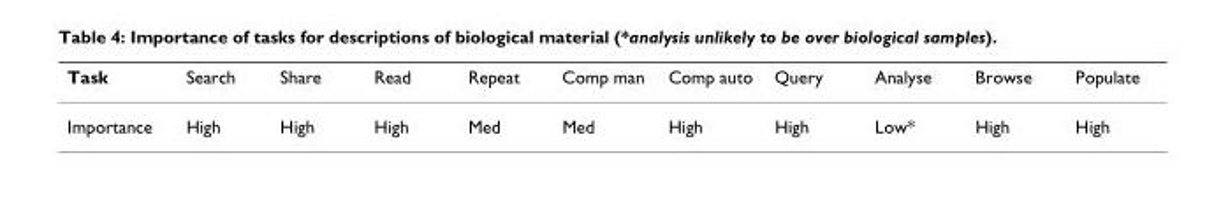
<table><thead><tr><td>Task</td><td>Search</td><td>Share</td><td>Read</td><td>Repeat</td><td>Comp man</td><td>Comp auto</td><td>Query</td><td>Analyse</td><td>Browse</td><td>Populate</td></tr></thead><tbody><tr><td>Importance</td><td>High</td><td>High</td><td>High</td><td>Med</td><td>Med</td><td>High</td><td>High</td><td>Low*</td><td>High</td><td>High</td></tr></tbody></table>